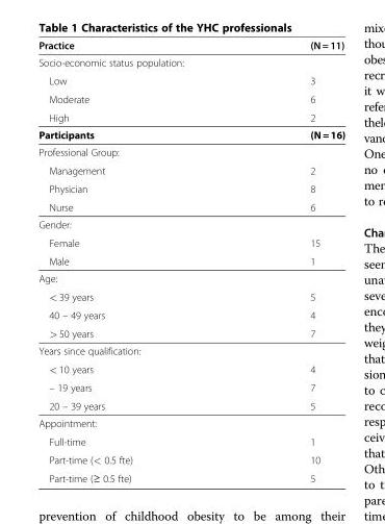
<table><thead><tr><td>Practice</td><td>(N = 11)</td></tr></thead><tbody><tr><td colspan="2">Socio-economic status population:</td></tr><tr><td>Low</td><td>3</td></tr><tr><td>Moderate</td><td>6</td></tr><tr><td>High</td><td>2</td></tr><tr><td>Participants</td><td>(N = 16)</td></tr><tr><td colspan="2">Professional Group:</td></tr><tr><td>Management</td><td>2</td></tr><tr><td>Physician</td><td>8</td></tr><tr><td>Nurse</td><td>6</td></tr><tr><td colspan="2">Gender:</td></tr><tr><td>Female</td><td>15</td></tr><tr><td>Male</td><td>1</td></tr><tr><td colspan="2">Age:</td></tr><tr><td>&lt; 39 years</td><td>5</td></tr><tr><td>40 – 49 years</td><td>4</td></tr><tr><td>&gt; 50 years</td><td>7</td></tr><tr><td colspan="2">Years since qualification:</td></tr><tr><td>&lt; 10 years</td><td>4</td></tr><tr><td>– 19 years</td><td>7</td></tr><tr><td>20 – 39 years</td><td>5</td></tr><tr><td colspan="2">Appointment:</td></tr><tr><td>Full-time</td><td>1</td></tr><tr><td>Part-time (&lt; 0.5 fte)</td><td>10</td></tr><tr><td>Part-time (≥ 0.5 fte)</td><td>5</td></tr></tbody></table>